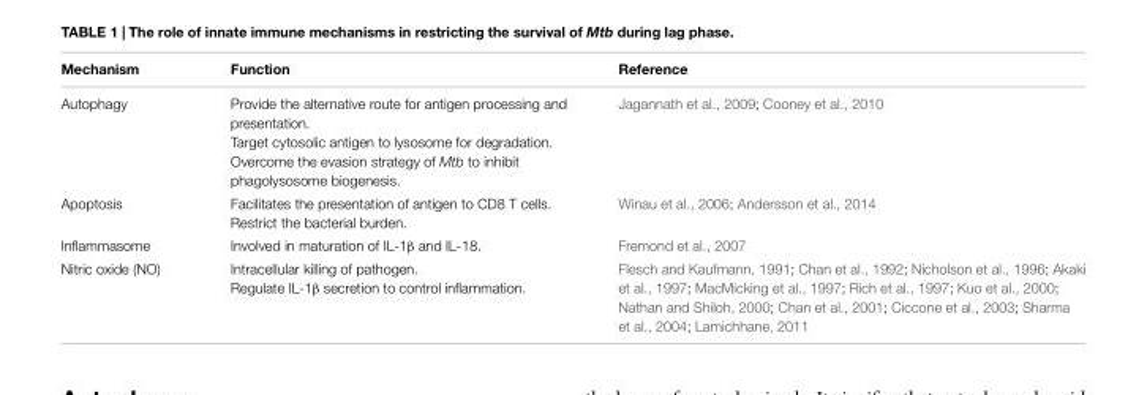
<table><thead><tr><td>Mechanism</td><td>Function</td><td>Reference</td></tr></thead><tbody><tr><td>Autophagy</td><td>Provide the alternative route for antigen processing and presentation. Target cytosolic antigen to lysosome for degradation. Overcome the evasion strategy of Mtb to inhibit phagolysosome biogenesis.</td><td>Jagannath et al., 2009; Cooney et al., 2010</td></tr><tr><td>Apoptosis</td><td>Facilitates the presentation of antigen to CD8 T cells. Restrict the bacterial burden.</td><td>Winau et al., 2006; Andersson et al., 2014</td></tr><tr><td>Inflammasome</td><td>Involved in maturation of IL-1β and IL-18.</td><td>Fremond et al., 2007</td></tr><tr><td>Nitric oxide (NO)</td><td>Intracellular killing of pathogen. Regulate IL-1β secretion to control inflammation.</td><td>Flesch and Kaufmann, 1991; Chan et al., 1992; Nicholson et al., 1996; Akaki et al., 1997; MacMicking et al., 1997; Rich et al., 1997; Kuo et al., 2000; Nathan and Shiloh, 2000; Chan et al., 2001; Ciccone et al., 2003; Sharma et al., 2004; Lamichhane, 2011</td></tr></tbody></table>